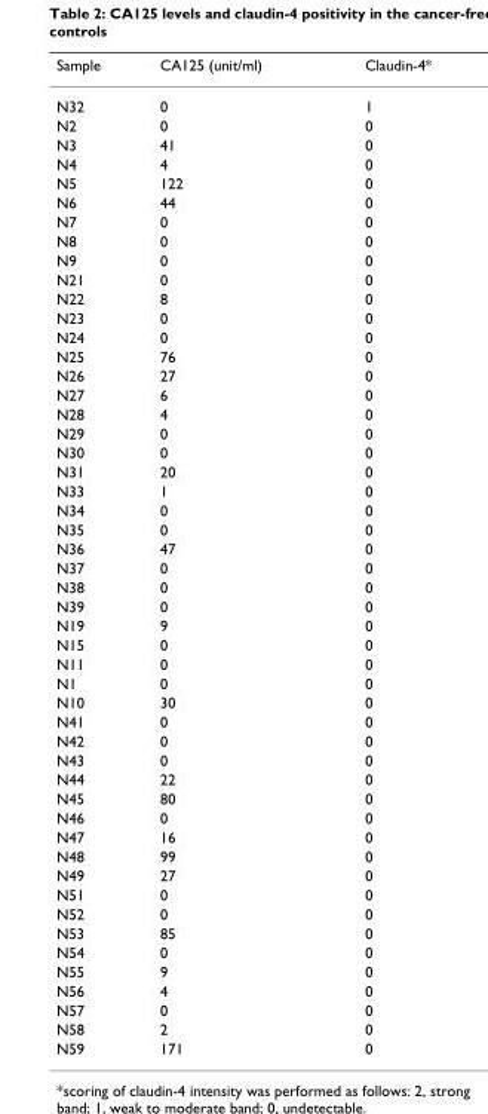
<table><thead><tr><td>Sample</td><td>CA125 (unit/ml)</td><td>Claudin-4*</td></tr></thead><tbody><tr><td>N32</td><td>0</td><td>1</td></tr><tr><td>N2</td><td>0</td><td>0</td></tr><tr><td>N3</td><td>41</td><td>0</td></tr><tr><td>N4</td><td>4</td><td>0</td></tr><tr><td>N5</td><td>122</td><td>0</td></tr><tr><td>N6</td><td>44</td><td>0</td></tr><tr><td>N7</td><td>0</td><td>0</td></tr><tr><td>N8</td><td>0</td><td>0</td></tr><tr><td>N9</td><td>0</td><td>0</td></tr><tr><td>N21</td><td>0</td><td>0</td></tr><tr><td>N22</td><td>8</td><td>0</td></tr><tr><td>N23</td><td>0</td><td>0</td></tr><tr><td>N24</td><td>0</td><td>0</td></tr><tr><td>N25</td><td>76</td><td>0</td></tr><tr><td>N26</td><td>27</td><td>0</td></tr><tr><td>N27</td><td>6</td><td>0</td></tr><tr><td>N28</td><td>4</td><td>0</td></tr><tr><td>N29</td><td>0</td><td>0</td></tr><tr><td>N30</td><td>0</td><td>0</td></tr><tr><td>N31</td><td>20</td><td>0</td></tr><tr><td>N33</td><td>1</td><td>0</td></tr><tr><td>N34</td><td>0</td><td>0</td></tr><tr><td>N35</td><td>0</td><td>0</td></tr><tr><td>N36</td><td>47</td><td>0</td></tr><tr><td>N37</td><td>0</td><td>0</td></tr><tr><td>N38</td><td>0</td><td>0</td></tr><tr><td>N39</td><td>0</td><td>0</td></tr><tr><td>N19</td><td>9</td><td>0</td></tr><tr><td>N15</td><td>0</td><td>0</td></tr><tr><td>N11</td><td>0</td><td>0</td></tr><tr><td>N1</td><td>0</td><td>0</td></tr><tr><td>N10</td><td>30</td><td>0</td></tr><tr><td>N41</td><td>0</td><td>0</td></tr><tr><td>N42</td><td>0</td><td>0</td></tr><tr><td>N43</td><td>0</td><td>0</td></tr><tr><td>N44</td><td>22</td><td>0</td></tr><tr><td>N45</td><td>80</td><td>0</td></tr><tr><td>N46</td><td>0</td><td>0</td></tr><tr><td>N47</td><td>16</td><td>0</td></tr><tr><td>N48</td><td>99</td><td>0</td></tr><tr><td>N49</td><td>27</td><td>0</td></tr><tr><td>N51</td><td>0</td><td>0</td></tr><tr><td>N52</td><td>0</td><td>0</td></tr><tr><td>N53</td><td>85</td><td>0</td></tr><tr><td>N54</td><td>0</td><td>0</td></tr><tr><td>N55</td><td>9</td><td>0</td></tr><tr><td>N56</td><td>4</td><td>0</td></tr><tr><td>N57</td><td>0</td><td>0</td></tr><tr><td>N58</td><td>2</td><td>0</td></tr><tr><td>N59</td><td>171</td><td>0</td></tr></tbody></table>